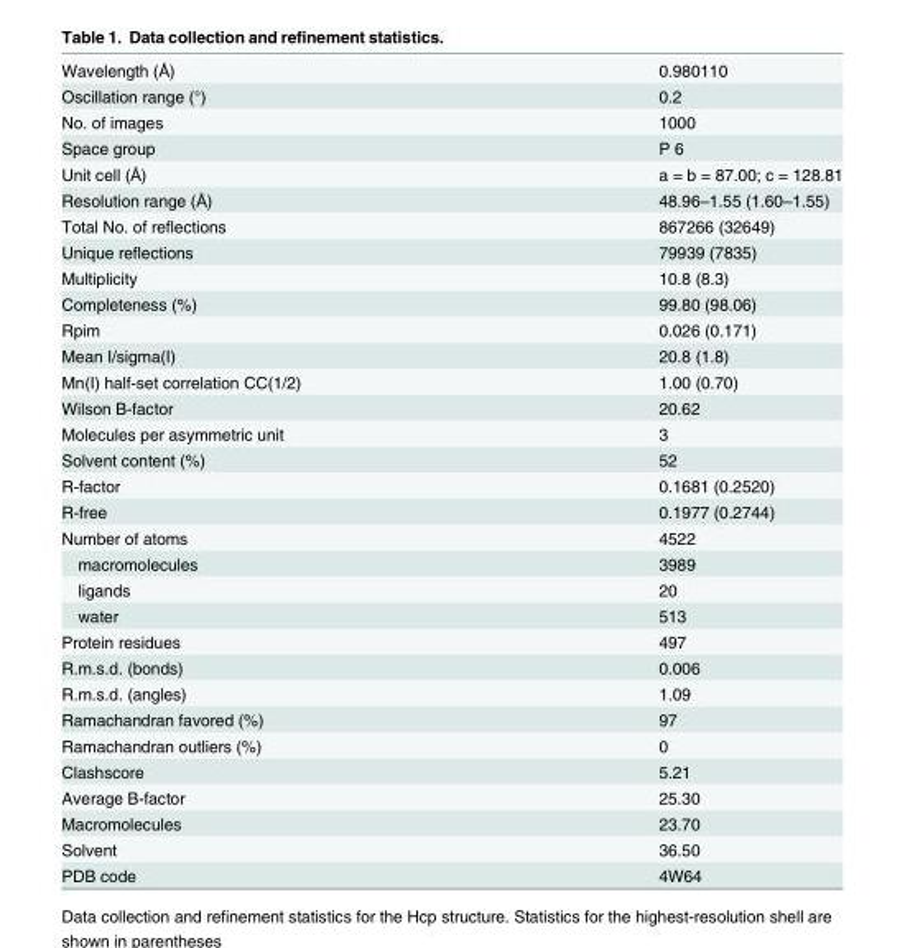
<table><tbody><tr><td>Wavelength (Å)</td><td>0.980110</td></tr><tr><td>Oscillation range (°)</td><td>0.2</td></tr><tr><td>No. of images</td><td>1000</td></tr><tr><td>Space group</td><td>P 6</td></tr><tr><td>Unit cell (Å)</td><td>a = b = 87.00; c = 128.81</td></tr><tr><td>Resolution range (Å)</td><td>48.96–1.55 (1.60–1.55)</td></tr><tr><td>Total No. of reflections</td><td>867266 (32649)</td></tr><tr><td>Unique reflections</td><td>79939 (7835)</td></tr><tr><td>Multiplicity</td><td>10.8 (8.3)</td></tr><tr><td>Completeness (%)</td><td>99.80 (98.06)</td></tr><tr><td>Rpim</td><td>0.026 (0.171)</td></tr><tr><td>Mean I/sigma(I)</td><td>20.8 (1.8)</td></tr><tr><td>Mn(I) half-set correlation CC(1/2)</td><td>1.00 (0.70)</td></tr><tr><td>Wilson B-factor</td><td>20.62</td></tr><tr><td>Molecules per asymmetric unit</td><td>3</td></tr><tr><td>Solvent content (%)</td><td>52</td></tr><tr><td>R-factor</td><td>0.1681 (0.2520)</td></tr><tr><td>R-free</td><td>0.1977 (0.2744)</td></tr><tr><td>Number of atoms</td><td>4522</td></tr><tr><td>macromolecules</td><td>3989</td></tr><tr><td>ligands</td><td>20</td></tr><tr><td>water</td><td>513</td></tr><tr><td>Protein residues</td><td>497</td></tr><tr><td>R.m.s.d. (bonds)</td><td>0.006</td></tr><tr><td>R.m.s.d. (angles)</td><td>1.09</td></tr><tr><td>Ramachandran favored (%)</td><td>97</td></tr><tr><td>Ramachandran outliers (%)</td><td>0</td></tr><tr><td>Clashscore</td><td>5.21</td></tr><tr><td>Average B-factor</td><td>25.30</td></tr><tr><td>Macromolecules</td><td>23.70</td></tr><tr><td>Solvent</td><td>36.50</td></tr><tr><td>PDB code</td><td>4W64</td></tr></tbody></table>